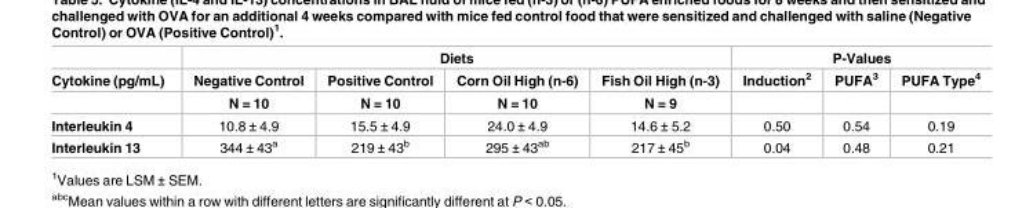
<table><thead><tr><td rowspan="3">Cytokine (pg/mL)</td><td colspan="4">Diets</td><td colspan="3">P-Values</td></tr><tr><td rowspan="2">Negative Control N = 10</td><td rowspan="2">Positive Control N = 10</td><td rowspan="2">Corn Oil High (n-6) N = 10</td><td rowspan="2">Fish Oil High (n-3) N = 9</td><td rowspan="2">Induction<sup>2</sup></td><td rowspan="2">PUFA<sup>3</sup></td><td rowspan="2">PUFA Type<sup>4</sup></td></tr><tr></tr></thead><tbody><tr><td>Interleukin 4</td><td>10.8 ± 4.9</td><td>15.5 ± 4.9</td><td>24.0 ± 4.9</td><td>14.6 ± 5.2</td><td>0.50</td><td>0.54</td><td>0.19</td></tr><tr><td>Interleukin 13</td><td>344 ± 43<sup>a</sup></td><td>219 ± 43<sup>b</sup></td><td>295 ± 43<sup>ab</sup></td><td>217 ± 45<sup>b</sup></td><td>0.04</td><td>0.48</td><td>0.21</td></tr></tbody></table>